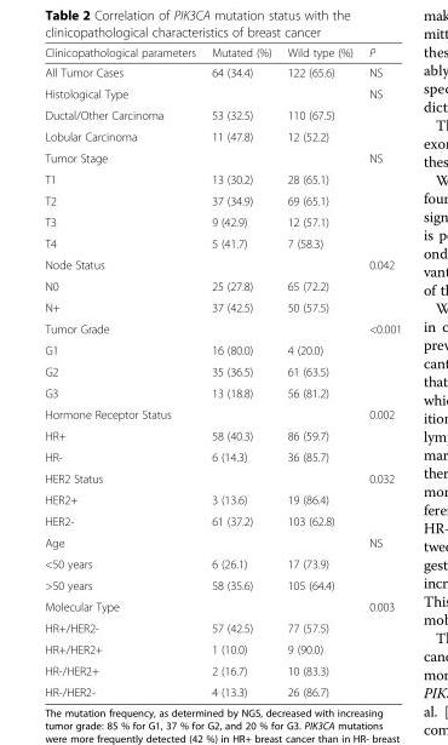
<table><thead><tr><td>Clinicopathological parameters</td><td>Mutated (%)</td><td>Wild type (%)</td><td>P</td></tr></thead><tbody><tr><td>All Tumor Cases</td><td>64 (34.4)</td><td>122 (65.6)</td><td>NS</td></tr><tr><td colspan="3">Histological Type</td><td rowspan="3">NS</td></tr><tr><td>Ductal/Other Carcinoma</td><td>53 (32.5)</td><td>110 (67.5)</td></tr><tr><td>Lobular Carcinoma</td><td>11 (47.8)</td><td>12 (52.2)</td></tr><tr><td colspan="3">Tumor Stage</td><td rowspan="5">NS</td></tr><tr><td>T1</td><td>13 (30.2)</td><td>28 (65.1)</td></tr><tr><td>T2</td><td>37 (34.9)</td><td>69 (65.1)</td></tr><tr><td>T3</td><td>9 (42.9)</td><td>12 (57.1)</td></tr><tr><td>T4</td><td>5 (41.7)</td><td>7 (58.3)</td></tr><tr><td colspan="3">Node Status</td><td rowspan="3">0.042</td></tr><tr><td>N0</td><td>25 (27.8)</td><td>65 (72.2)</td></tr><tr><td>N+</td><td>37 (42.5)</td><td>50 (57.5)</td></tr><tr><td colspan="3">Tumor Grade</td><td rowspan="4">&lt;0.001</td></tr><tr><td>G1</td><td>16 (80.0)</td><td>4 (20.0)</td></tr><tr><td>G2</td><td>35 (36.5)</td><td>61 (63.5)</td></tr><tr><td>G3</td><td>13 (18.8)</td><td>56 (81.2)</td></tr><tr><td colspan="3">Hormone Receptor Status</td><td rowspan="3">0.002</td></tr><tr><td>HR+</td><td>58 (40.3)</td><td>86 (59.7)</td></tr><tr><td>HR-</td><td>6 (14.3)</td><td>36 (85.7)</td></tr><tr><td colspan="3">HER2 Status</td><td rowspan="3">0.032</td></tr><tr><td>HER2+</td><td>3 (13.6)</td><td>19 (86.4)</td></tr><tr><td>HER2-</td><td>61 (37.2)</td><td>103 (62.8)</td></tr><tr><td colspan="3">Age</td><td rowspan="3">NS</td></tr><tr><td>&lt;50 years</td><td>6 (26.1)</td><td>17 (73.9)</td></tr><tr><td>&gt;50 years</td><td>58 (35.6)</td><td>105 (64.4)</td></tr><tr><td colspan="3">Molecular Type</td><td rowspan="3">0.003</td></tr><tr><td>HR+/HER2-</td><td>57 (42.5)</td><td>77 (57.5)</td></tr><tr><td>HR+/HER2+</td><td>1 (10.0)</td><td>9 (90.0)</td></tr><tr><td>HR-/HER2+</td><td>2 (16.7)</td><td>10 (83.3)</td><td rowspan="2"></td></tr><tr><td>HR-/HER2-</td><td>4 (13.3)</td><td>26 (86.7)</td></tr></tbody></table>